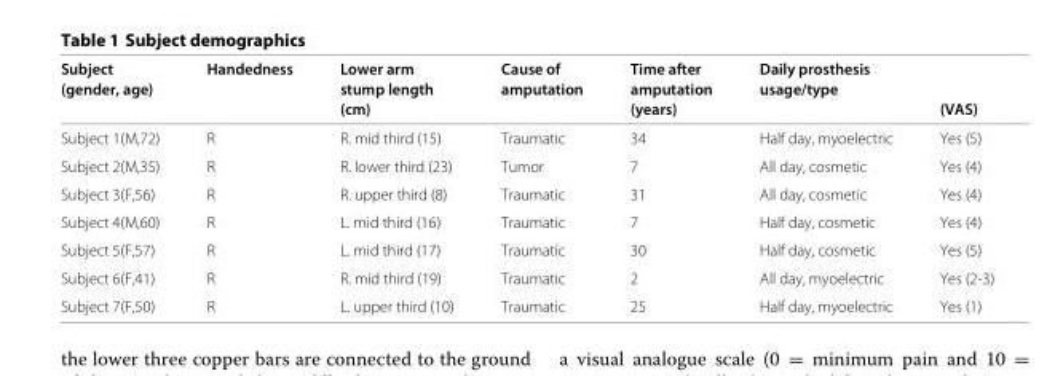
<table><thead><tr><td rowspan="3">Subject (gender, age)</td><td rowspan="3">Handedness</td><td rowspan="3">Lower arm stump length (cm)</td><td rowspan="3">Cause of amputation</td><td rowspan="3">Time after amputation (years)</td><td rowspan="3">Daily prosthesis usage/type</td><td rowspan="3">(VAS)</td></tr><tr></tr><tr></tr></thead><tbody><tr><td>Subject 1(M,72)</td><td>R</td><td>R. mid third (15)</td><td>Traumatic</td><td>34</td><td>Half day, myoelectric</td><td>Yes (5)</td></tr><tr><td>Subject 2(M,35)</td><td>R</td><td>R. lower third (23)</td><td>Tumor</td><td>7</td><td>All day, cosmetic</td><td>Yes (4)</td></tr><tr><td>Subject 3(F,56)</td><td>R</td><td>R. upper third (8)</td><td>Traumatic</td><td>31</td><td>All day, cosmetic</td><td>Yes (4)</td></tr><tr><td>Subject 4(M,60)</td><td>R</td><td>L. mid third (16)</td><td>Traumatic</td><td>7</td><td>Half day, cosmetic</td><td>Yes (4)</td></tr><tr><td>Subject 5(F,57)</td><td>R</td><td>L. mid third (17)</td><td>Traumatic</td><td>30</td><td>Half day, cosmetic</td><td>Yes (5)</td></tr><tr><td>Subject 6(F,41)</td><td>R</td><td>R. mid third (19)</td><td>Traumatic</td><td>2</td><td>All day, myoelectric</td><td>Yes (2-3)</td></tr><tr><td>Subject 7(F,50)</td><td>R</td><td>L. upper third (10)</td><td>Traumatic</td><td>25</td><td>Half day, myoelectric</td><td>Yes (1)</td></tr></tbody></table>